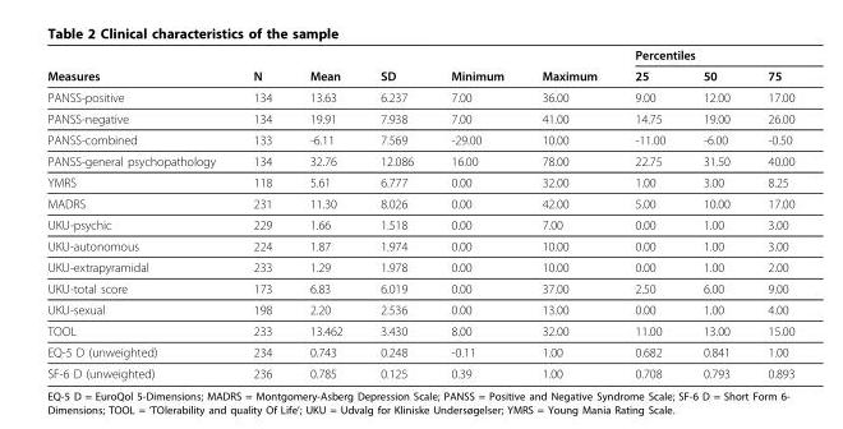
<table><thead><tr><td rowspan="2">Measures</td><td rowspan="2">N</td><td rowspan="2">Mean</td><td rowspan="2">SD</td><td rowspan="2">Minimum</td><td rowspan="2">Maximum</td><td colspan="3">Percentiles</td></tr><tr><td>25</td><td>50</td><td>75</td></tr></thead><tbody><tr><td>PANSS-positive</td><td>134</td><td>13.63</td><td>6.237</td><td>7.00</td><td>36.00</td><td>9.00</td><td>12.00</td><td>17.00</td></tr><tr><td>PANSS-negative</td><td>134</td><td>19.91</td><td>7.938</td><td>7.00</td><td>41.00</td><td>14.75</td><td>19.00</td><td>26.00</td></tr><tr><td>PANSS-combined</td><td>133</td><td>-6.11</td><td>7.569</td><td>-29.00</td><td>10.00</td><td>-11.00</td><td>-6.00</td><td>-0.50</td></tr><tr><td>PANSS-general psychopathology</td><td>134</td><td>32.76</td><td>12.086</td><td>16.00</td><td>78.00</td><td>22.75</td><td>31.50</td><td>40.00</td></tr><tr><td>YMRS</td><td>118</td><td>5.61</td><td>6.777</td><td>0.00</td><td>32.00</td><td>1.00</td><td>3.00</td><td>8.25</td></tr><tr><td>MADRS</td><td>231</td><td>11.30</td><td>8.026</td><td>0.00</td><td>42.00</td><td>5.00</td><td>10.00</td><td>17.00</td></tr><tr><td>UKU-psychic</td><td>229</td><td>1.66</td><td>1.518</td><td>0.00</td><td>7.00</td><td>0.00</td><td>1.00</td><td>3.00</td></tr><tr><td>UKU-autonomous</td><td>224</td><td>1.87</td><td>1.974</td><td>0.00</td><td>10.00</td><td>0.00</td><td>1.00</td><td>3.00</td></tr><tr><td>UKU-extrapyramidal</td><td>233</td><td>1.29</td><td>1.978</td><td>0.00</td><td>10.00</td><td>0.00</td><td>1.00</td><td>2.00</td></tr><tr><td>UKU-total score</td><td>173</td><td>6.83</td><td>6.019</td><td>0.00</td><td>37.00</td><td>2.50</td><td>6.00</td><td>9.00</td></tr><tr><td>UKU-sexual</td><td>198</td><td>2.20</td><td>2.536</td><td>0.00</td><td>13.00</td><td>0.00</td><td>1.00</td><td>4.00</td></tr><tr><td>TOOL</td><td>233</td><td>13.462</td><td>3.430</td><td>8.00</td><td>32.00</td><td>11.00</td><td>13.00</td><td>15.00</td></tr><tr><td>EQ-5 D (unweighted)</td><td>234</td><td>0.743</td><td>0.248</td><td>-0.11</td><td>1.00</td><td>0.682</td><td>0.841</td><td>1.00</td></tr><tr><td>SF-6 D (unweighted)</td><td>236</td><td>0.785</td><td>0.125</td><td>0.39</td><td>1.00</td><td>0.708</td><td>0.793</td><td>0.893</td></tr></tbody></table>